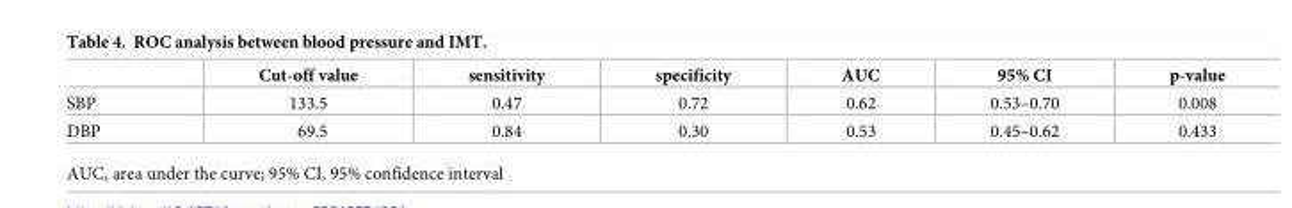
<table><thead><tr><td></td><td>Cut-off value</td><td>sensitivity</td><td>specificity</td><td>AUC</td><td>95% CI</td><td>p-value</td></tr></thead><tbody><tr><td>SBP</td><td>133.5</td><td>0.47</td><td>0.72</td><td>0.62</td><td>0.53–0.70</td><td>0.008</td></tr><tr><td>DBP</td><td>69.5</td><td>0.84</td><td>0.30</td><td>0.53</td><td>0.45–0.62</td><td>0.433</td></tr></tbody></table>